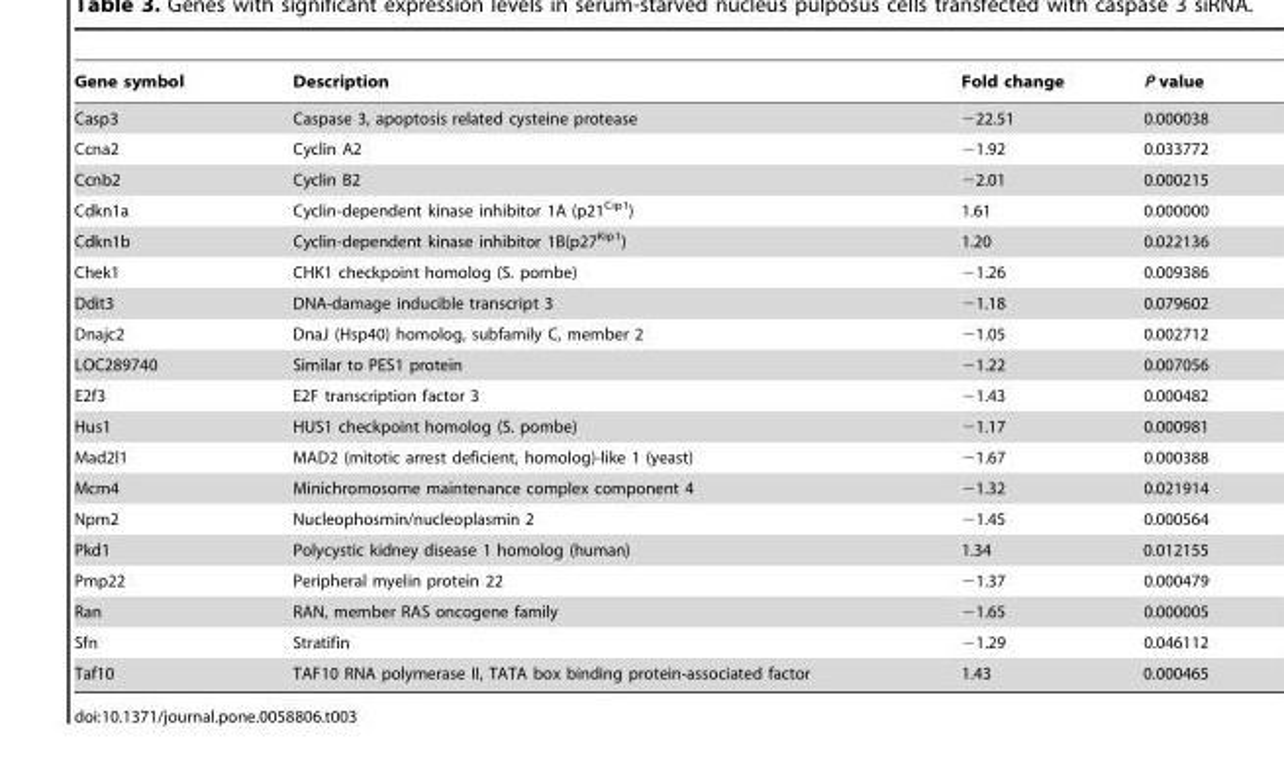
<table><thead><tr><td>Gene symbol</td><td>Description</td><td>Fold change</td><td>P value</td></tr></thead><tbody><tr><td>Casp3</td><td>Caspase 3, apoptosis related cysteine protease</td><td>−22.51</td><td>0.000038</td></tr><tr><td>Ccna2</td><td>Cyclin A2</td><td>−1.92</td><td>0.033772</td></tr><tr><td>Ccnb2</td><td>Cyclin B2</td><td>−2.01</td><td>0.000215</td></tr><tr><td>Cdkn1a</td><td>Cyclin-dependent kinase inhibitor 1A (p21<sup>Cip1</sup>)</td><td>1.61</td><td>0.000000</td></tr><tr><td>Cdkn1b</td><td>Cyclin-dependent kinase inhibitor 1B(p27<sup>Kip1</sup>)</td><td>1.20</td><td>0.022136</td></tr><tr><td>Chek1</td><td>CHK1 checkpoint homolog (S. pombe)</td><td>−1.26</td><td>0.009386</td></tr><tr><td>Ddit3</td><td>DNA-damage inducible transcript 3</td><td>−1.18</td><td>0.079602</td></tr><tr><td>Dnajc2</td><td>DnaJ (Hsp40) homolog, subfamily C, member 2</td><td>−1.05</td><td>0.002712</td></tr><tr><td>LOC289740</td><td>Similar to PES1 protein</td><td>−1.22</td><td>0.007056</td></tr><tr><td>E2f3</td><td>E2F transcription factor 3</td><td>−1.43</td><td>0.000482</td></tr><tr><td>Hus1</td><td>HUS1 checkpoint homolog (S. pombe)</td><td>−1.17</td><td>0.000981</td></tr><tr><td>Mad2l1</td><td>MAD2 (mitotic arrest deficient, homolog)-like 1 (yeast)</td><td>−1.67</td><td>0.000388</td></tr><tr><td>Mcm4</td><td>Minichromosome maintenance complex component 4</td><td>−1.32</td><td>0.021914</td></tr><tr><td>Npm2</td><td>Nucleophosmin/nucleoplasmin 2</td><td>−1.45</td><td>0.000564</td></tr><tr><td>Pkd1</td><td>Polycystic kidney disease 1 homolog (human)</td><td>1.34</td><td>0.012155</td></tr><tr><td>Pmp22</td><td>Peripheral myelin protein 22</td><td>−1.37</td><td>0.000479</td></tr><tr><td>Ran</td><td>RAN, member RAS oncogene family</td><td>−1.65</td><td>0.000005</td></tr><tr><td>Sfn</td><td>Stratifin</td><td>−1.29</td><td>0.046112</td></tr><tr><td>Taf10</td><td>TAF10 RNA polymerase II, TATA box binding protein-associated factor</td><td>1.43</td><td>0.000465</td></tr></tbody></table>